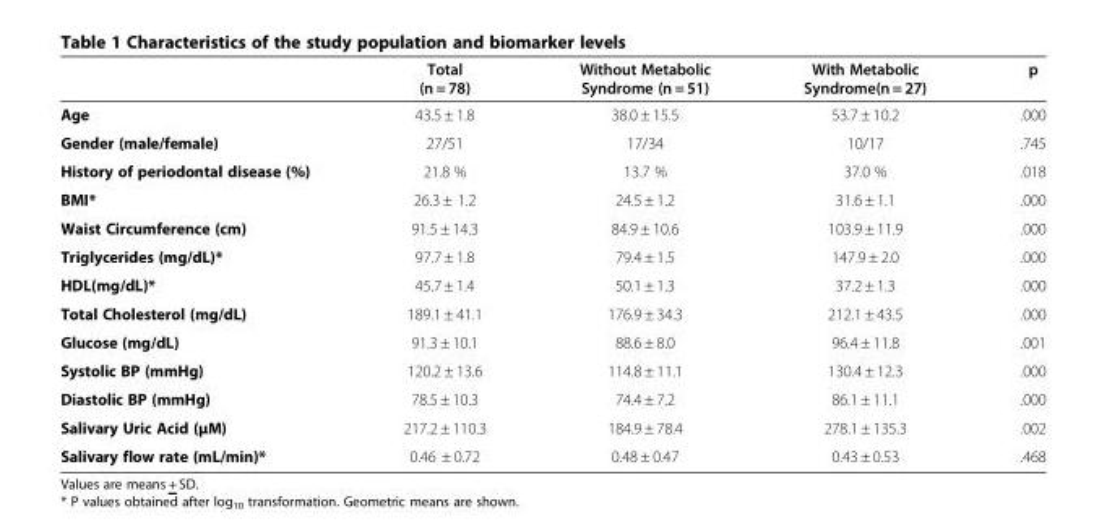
<table><thead><tr><td></td><td>Total (n = 78)</td><td>Without Metabolic Syndrome (n = 51)</td><td>With Metabolic Syndrome(n = 27)</td><td>p</td></tr></thead><tbody><tr><td>Age</td><td>43.5 ± 1.8</td><td>38.0 ± 15.5</td><td>53.7 ± 10.2</td><td>.000</td></tr><tr><td>Gender (male/female)</td><td>27/51</td><td>17/34</td><td>10/17</td><td>.745</td></tr><tr><td>History of periodontal disease (%)</td><td>21.8 %</td><td>13.7 %</td><td>37.0 %</td><td>.018</td></tr><tr><td>BMI*</td><td>26.3 ± 1.2</td><td>24.5 ± 1.2</td><td>31.6 ± 1.1</td><td>.000</td></tr><tr><td>Waist Circumference (cm)</td><td>91.5 ± 14.3</td><td>84.9 ± 10.6</td><td>103.9 ± 11.9</td><td>.000</td></tr><tr><td>Triglycerides (mg/dL)*</td><td>97.7 ± 1.8</td><td>79.4 ± 1.5</td><td>147.9 ± 2.0</td><td>.000</td></tr><tr><td>HDL(mg/dL)*</td><td>45.7 ± 1.4</td><td>50.1 ± 1.3</td><td>37.2 ± 1.3</td><td>.000</td></tr><tr><td>Total Cholesterol (mg/dL)</td><td>189.1 ± 41.1</td><td>176.9 ± 34.3</td><td>212.1 ± 43.5</td><td>.000</td></tr><tr><td>Glucose (mg/dL)</td><td>91.3 ± 10.1</td><td>88.6 ± 8.0</td><td>96.4 ± 11.8</td><td>.001</td></tr><tr><td>Systolic BP (mmHg)</td><td>120.2 ± 13.6</td><td>114.8 ± 11.1</td><td>130.4 ± 12.3</td><td>.000</td></tr><tr><td>Diastolic BP (mmHg)</td><td>78.5 ± 10.3</td><td>74.4 ± 7.2</td><td>86.1 ± 11.1</td><td>.000</td></tr><tr><td>Salivary Uric Acid (μM)</td><td>217.2 ± 110.3</td><td>184.9 ± 78.4</td><td>278.1 ± 135.3</td><td>.002</td></tr><tr><td>Salivary flow rate (mL/min)*</td><td>0.46 ± 0.72</td><td>0.48 ± 0.47</td><td>0.43 ± 0.53</td><td>.468</td></tr></tbody></table>